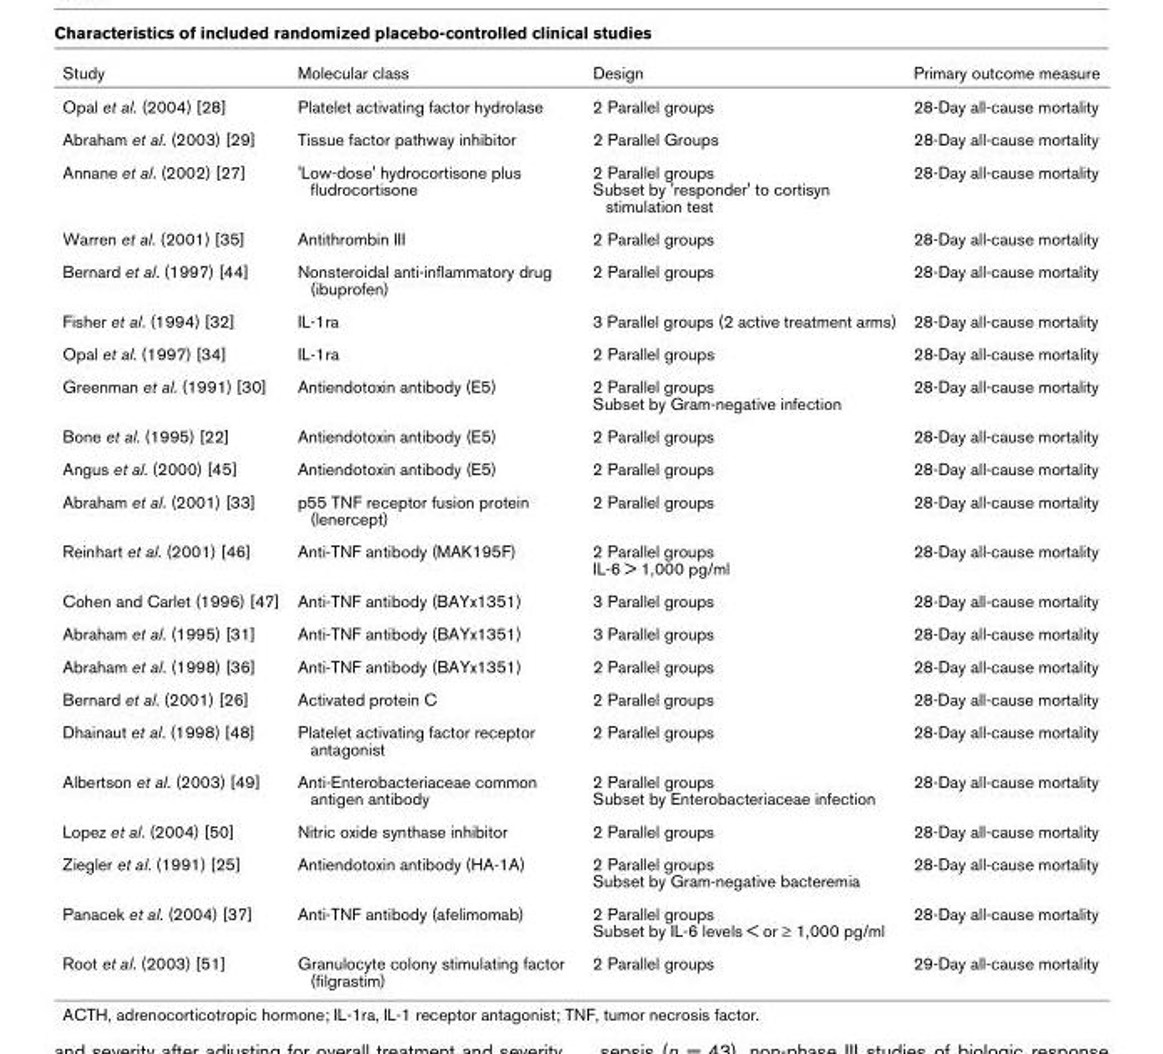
<table><thead><tr><td>Study</td><td>Molecular class</td><td>Design</td><td>Primary outcome measure</td></tr></thead><tbody><tr><td>Opal et al. (2004) [28]</td><td>Platelet activating factor hydrolase</td><td>2 Parallel groups</td><td>28-Day all-cause mortality</td></tr><tr><td>Abraham et al. (2003) [29]</td><td>Tissue factor pathway inhibitor</td><td>2 Parallel Groups</td><td>28-Day all-cause mortality</td></tr><tr><td>Annane et al. (2002) [27]</td><td>&#x27;Low-dose&#x27; hydrocortisone plus fludrocortisone</td><td>2 Parallel groups Subset by &#x27;responder&#x27; to cortisyn stimulation test</td><td>28-Day all-cause mortality</td></tr><tr><td>Warren et al. (2001) [35]</td><td>Antithrombin III</td><td>2 Parallel groups</td><td>28-Day all-cause mortality</td></tr><tr><td>Bernard et al. (1997) [44]</td><td>Nonsteroidal anti-inflammatory drug (ibuprofen)</td><td>2 Parallel groups</td><td>28-Day all-cause mortality</td></tr><tr><td>Fisher et al. (1994) [32]</td><td>IL-1ra</td><td>3 Parallel groups (2 active treatment arms)</td><td>28-Day all-cause mortality</td></tr><tr><td>Opal et al. (1997) [34]</td><td>IL-1ra</td><td>2 Parallel groups</td><td>28-Day all-cause mortality</td></tr><tr><td>Greenman et al. (1991) [30]</td><td>Antiendotoxin antibody (E5)</td><td>2 Parallel groups Subset by Gram-negative infection</td><td>28-Day all-cause mortality</td></tr><tr><td>Bone et al. (1995) [22]</td><td>Antiendotoxin antibody (E5)</td><td>2 Parallel groups</td><td>28-Day all-cause mortality</td></tr><tr><td>Angus et al. (2000) [45]</td><td>Antiendotoxin antibody (E5)</td><td>2 Parallel groups</td><td>28-Day all-cause mortality</td></tr><tr><td>Abraham et al. (2001) [33]</td><td>p55 TNF receptor fusion protein (lenercept)</td><td>2 Parallel groups</td><td>28-Day all-cause mortality</td></tr><tr><td>Reinhart et al. (2001) [46]</td><td>Anti-TNF antibody (MAK195F)</td><td>2 Parallel groups IL-6 &gt; 1,000 pg/ml</td><td>28-Day all-cause mortality</td></tr><tr><td>Cohen and Carlet (1996) [47]</td><td>Anti-TNF antibody (BAYx1351)</td><td>3 Parallel groups</td><td>28-Day all-cause mortality</td></tr><tr><td>Abraham et al. (1995) [31]</td><td>Anti-TNF antibody (BAYx1351)</td><td>3 Parallel groups</td><td>28-Day all-cause mortality</td></tr><tr><td>Abraham et al. (1998) [36]</td><td>Anti-TNF antibody (BAYx1351)</td><td>2 Parallel groups</td><td>28-Day all-cause mortality</td></tr><tr><td>Bernard et al. (2001) [26]</td><td>Activated protein C</td><td>2 Parallel groups</td><td>28-Day all-cause mortality</td></tr><tr><td>Dhainaut et al. (1998) [48]</td><td>Platelet activating factor receptor antagonist</td><td>2 Parallel groups</td><td>28-Day all-cause mortality</td></tr><tr><td>Albertson et al. (2003) [49]</td><td>Anti-Enterobacteriaceae common antigen antibody</td><td>2 Parallel groups Subset by Enterobacteriaceae infection</td><td>28-Day all-cause mortality</td></tr><tr><td>Lopez et al. (2004) [50]</td><td>Nitric oxide synthase inhibitor</td><td>2 Parallel groups</td><td>28-Day all-cause mortality</td></tr><tr><td>Ziegler et al. (1991) [25]</td><td>Antiendotoxin antibody (HA-1A)</td><td>2 Parallel groups Subset by Gram-negative bacteremia</td><td>28-Day all-cause mortality</td></tr><tr><td>Panacek et al. (2004) [37]</td><td>Anti-TNF antibody (afelimomab)</td><td>2 Parallel groups Subset by IL-6 levels &lt; or ≥ 1,000 pg/ml</td><td>28-Day all-cause mortality</td></tr><tr><td>Root et al. (2003) [51]</td><td>Granulocyte colony stimulating factor (filgrastim)</td><td>2 Parallel groups</td><td>29-Day all-cause mortality</td></tr></tbody></table>